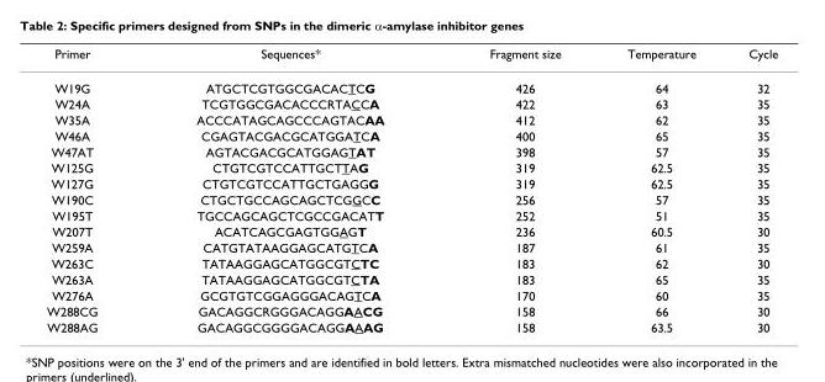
<table><thead><tr><td>Primer</td><td>Sequences*</td><td>Fragment size</td><td>Temperature</td><td>Cycle</td></tr></thead><tbody><tr><td>W19G</td><td>ATGCTCGTGGCGACACTCG</td><td>426</td><td>64</td><td>32</td></tr><tr><td>W24A</td><td>TCGTGGCGACACCCRTACCA</td><td>422</td><td>63</td><td>35</td></tr><tr><td>W35A</td><td>ACCCATAGCAGCCCAGTACAA</td><td>412</td><td>62</td><td>35</td></tr><tr><td>W46A</td><td>CGAGTACGACGCATGGATCA</td><td>400</td><td>65</td><td>35</td></tr><tr><td>W47AT</td><td>AGTACGACGCATGGAGTAT</td><td>398</td><td>57</td><td>35</td></tr><tr><td>W125G</td><td>CTGTCGTCCATTGCTTAG</td><td>319</td><td>62.5</td><td>35</td></tr><tr><td>W127G</td><td>CTGTCGTCCATTGCTGAGGG</td><td>319</td><td>62.5</td><td>35</td></tr><tr><td>W190C</td><td>CTGCTGCCAGCAGCTCGGCC</td><td>256</td><td>57</td><td>35</td></tr><tr><td>W195T</td><td>TGCCAGCAGCTCGCCGACATT</td><td>252</td><td>51</td><td>35</td></tr><tr><td>W207T</td><td>ACATCAGCGAGTGGAGT</td><td>236</td><td>60.5</td><td>30</td></tr><tr><td>W259A</td><td>CATGTATAAGGAGCATGTCA</td><td>187</td><td>61</td><td>35</td></tr><tr><td>W263C</td><td>TATAAGGAGCATGGCGTCTC</td><td>183</td><td>62</td><td>30</td></tr><tr><td>W263A</td><td>TATAAGGAGCATGGCGTCTA</td><td>183</td><td>65</td><td>35</td></tr><tr><td>W276A</td><td>GCGTGTCGGAGGGACAGTCA</td><td>170</td><td>60</td><td>35</td></tr><tr><td>W288CG</td><td>GACAGGCRGGGACAGGAACG</td><td>158</td><td>66</td><td>30</td></tr><tr><td>W288AG</td><td>GACAGGCGGGGACAGGAAAG</td><td>158</td><td>63.5</td><td>30</td></tr></tbody></table>